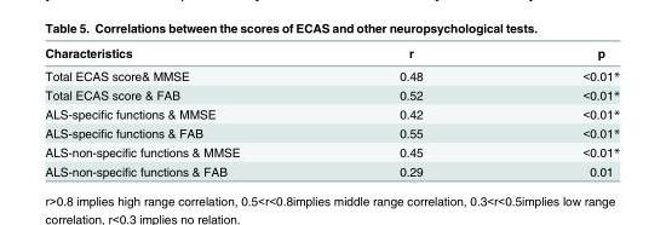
<table><thead><tr><td>Characteristics</td><td>r</td><td>p</td></tr></thead><tbody><tr><td>Total ECAS score&amp; MMSE</td><td>0.48</td><td>&lt;0.01*</td></tr><tr><td>Total ECAS score &amp; FAB</td><td>0.52</td><td>&lt;0.01*</td></tr><tr><td>ALS-specific functions &amp; MMSE</td><td>0.42</td><td>&lt;0.01*</td></tr><tr><td>ALS-specific functions &amp; FAB</td><td>0.55</td><td>&lt;0.01*</td></tr><tr><td>ALS-non-specific functions &amp; MMSE</td><td>0.45</td><td>&lt;0.01*</td></tr><tr><td>ALS-non-specific functions &amp; FAB</td><td>0.29</td><td>0.01</td></tr></tbody></table>